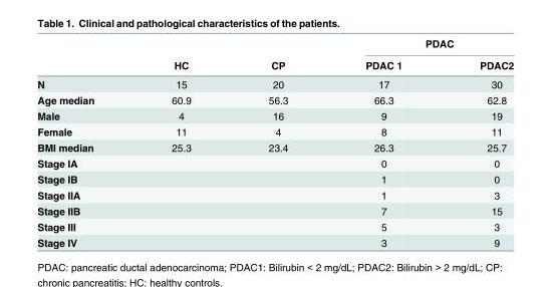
<table><thead><tr><td rowspan="2"></td><td rowspan="2">HC</td><td rowspan="2">CP</td><td colspan="2">PDAC</td></tr><tr><td>PDAC 1</td><td>PDAC2</td></tr></thead><tbody><tr><td>N</td><td>15</td><td>20</td><td>17</td><td>30</td></tr><tr><td>Age median</td><td>60.9</td><td>56.3</td><td>66.3</td><td>62.8</td></tr><tr><td>Male</td><td>4</td><td>16</td><td>9</td><td>19</td></tr><tr><td>Female</td><td>11</td><td>4</td><td>8</td><td>11</td></tr><tr><td>BMI median</td><td>25.3</td><td>23.4</td><td>26.3</td><td>25.7</td></tr><tr><td>Stage IA</td><td></td><td></td><td>0</td><td>0</td></tr><tr><td>Stage IB</td><td></td><td></td><td>1</td><td>0</td></tr><tr><td>Stage IIA</td><td></td><td></td><td>1</td><td>3</td></tr><tr><td>Stage IIB</td><td></td><td></td><td>7</td><td>15</td></tr><tr><td>Stage III</td><td></td><td></td><td>5</td><td>3</td></tr><tr><td>Stage IV</td><td></td><td></td><td>3</td><td>9</td></tr></tbody></table>